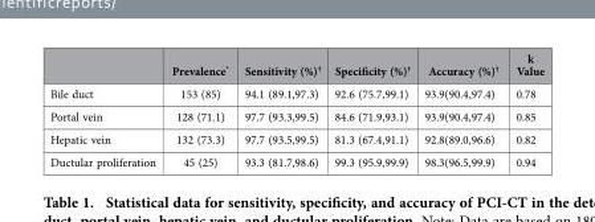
<table><thead><tr><td></td><td>Prevalence*</td><td>Sensitivity (%)†</td><td>Specificity (%)†</td><td>Accuracy (%)†</td><td>k Value</td></tr></thead><tbody><tr><td>Bile duct</td><td>153 (85)</td><td>94.1 (89.1,97.3)</td><td>92.6 (75.7,99.1)</td><td>93.9(90.4,97.4)</td><td>0.78</td></tr><tr><td>Portal vein</td><td>128 (71.1)</td><td>97.7 (93.3,99.5)</td><td>84.6 (71.9,93.1)</td><td>93.9(90.4,97.4)</td><td>0.85</td></tr><tr><td>Hepatic vein</td><td>132 (73.3)</td><td>97.7 (93.5,99.5)</td><td>81.3 (67.4,91.1)</td><td>92.8(89.0,96.6)</td><td>0.82</td></tr><tr><td>Ductular proliferation</td><td>45 (25)</td><td>93.3 (81.7,98.6)</td><td>99.3 (95.9,99.9)</td><td>98.3(96.5,99.9)</td><td>0.94</td></tr></tbody></table>